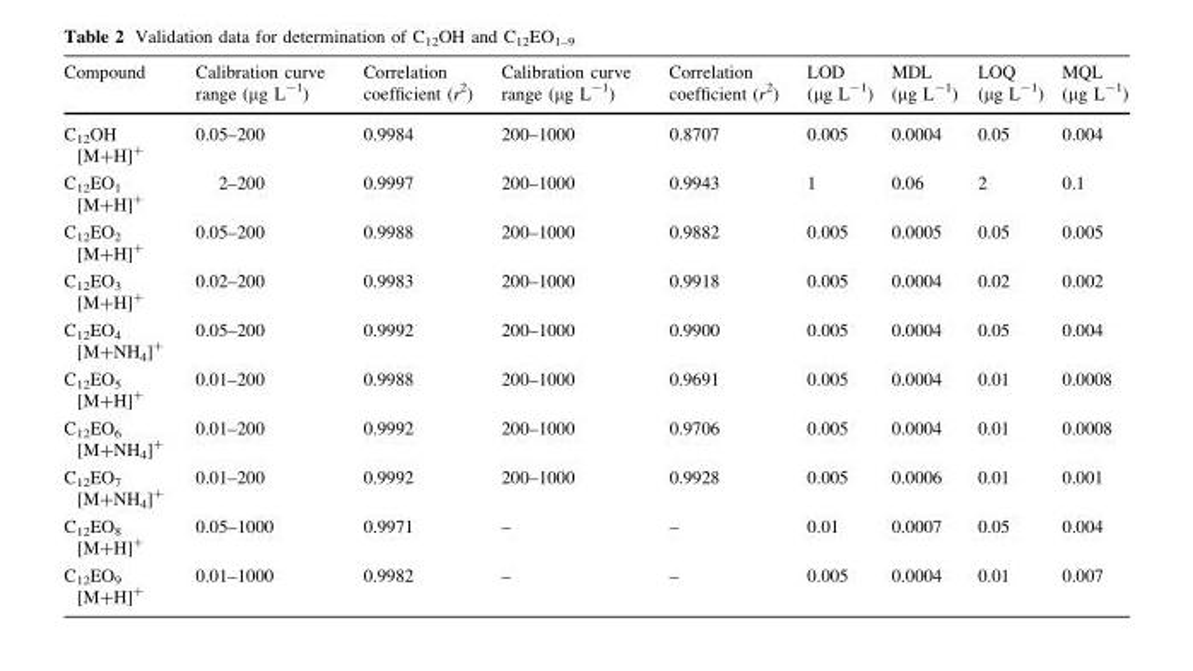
<table><thead><tr><td>Compound</td><td>Calibration curve range (µg L<sup>-1</sup>)</td><td>Correlation coefficient (r<sup>2</sup>)</td><td>Calibration curve range (µg L<sup>-1</sup>)</td><td>Correlation coefficient (r<sup>2</sup>)</td><td>LOD (µg L<sup>-1</sup>)</td><td>MDL (µg L<sup>-1</sup>)</td><td>LOQ (µg L<sup>-1</sup>)</td><td>MQL (µg L<sup>-1</sup>)</td></tr></thead><tbody><tr><td>C<sub>12</sub>OH [M+H]<sup>+</sup></td><td>0.05–200</td><td>0.9984</td><td>200–1000</td><td>0.8707</td><td>0.005</td><td>0.0004</td><td>0.05</td><td>0.004</td></tr><tr><td>C<sub>12</sub>EO<sub>1</sub> [M+H]<sup>+</sup></td><td>2–200</td><td>0.9997</td><td>200–1000</td><td>0.9943</td><td>1</td><td>0.06</td><td>2</td><td>0.1</td></tr><tr><td>C<sub>12</sub>EO<sub>2</sub> [M+H]<sup>+</sup></td><td>0.05–200</td><td>0.9988</td><td>200–1000</td><td>0.9882</td><td>0.005</td><td>0.0005</td><td>0.05</td><td>0.005</td></tr><tr><td>C<sub>12</sub>EO<sub>3</sub> [M+H]<sup>+</sup></td><td>0.02–200</td><td>0.9983</td><td>200–1000</td><td>0.9918</td><td>0.005</td><td>0.0004</td><td>0.02</td><td>0.002</td></tr><tr><td>C<sub>12</sub>EO<sub>4</sub> [M+NH<sub>4</sub>]<sup>+</sup></td><td>0.05–200</td><td>0.9992</td><td>200–1000</td><td>0.9900</td><td>0.005</td><td>0.0004</td><td>0.05</td><td>0.004</td></tr><tr><td>C<sub>12</sub>EO<sub>5</sub> [M+H]<sup>+</sup></td><td>0.01–200</td><td>0.9988</td><td>200–1000</td><td>0.9691</td><td>0.005</td><td>0.0004</td><td>0.01</td><td>0.0008</td></tr><tr><td>C<sub>12</sub>EO<sub>6</sub> [M+NH<sub>4</sub>]<sup>+</sup></td><td>0.01–200</td><td>0.9992</td><td>200–1000</td><td>0.9706</td><td>0.005</td><td>0.0004</td><td>0.01</td><td>0.0008</td></tr><tr><td>C<sub>12</sub>EO<sub>7</sub> [M+NH<sub>4</sub>]<sup>+</sup></td><td>0.01–200</td><td>0.9992</td><td>200–1000</td><td>0.9928</td><td>0.005</td><td>0.0006</td><td>0.01</td><td>0.001</td></tr><tr><td>C<sub>12</sub>EO<sub>8</sub> [M+H]<sup>+</sup></td><td>0.05–1000</td><td>0.9971</td><td>–</td><td>–</td><td>0.01</td><td>0.0007</td><td>0.05</td><td>0.004</td></tr><tr><td>C<sub>12</sub>EO<sub>9</sub> [M+H]<sup>+</sup></td><td>0.01–1000</td><td>0.9982</td><td>–</td><td>–</td><td>0.005</td><td>0.0004</td><td>0.01</td><td>0.007</td></tr></tbody></table>